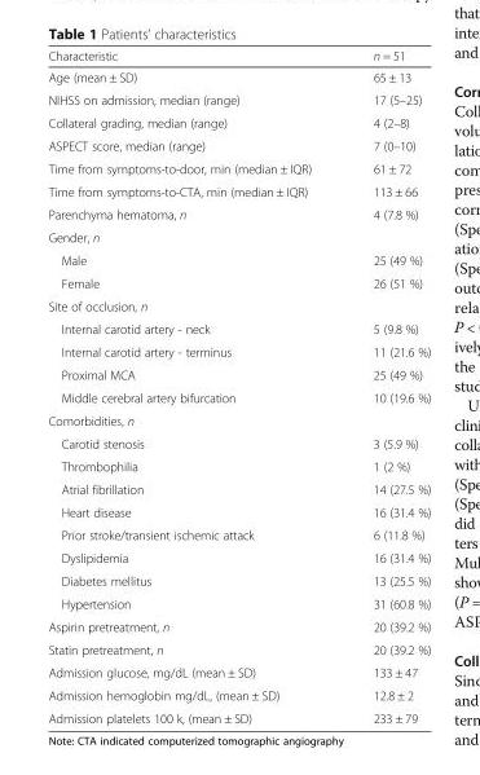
<table><thead><tr><td>Characteristic</td><td>n = 51</td></tr></thead><tbody><tr><td>Age (mean ± SD)</td><td>65 ± 13</td></tr><tr><td>NIHSS on admission, median (range)</td><td>17 (5–25)</td></tr><tr><td>Collateral grading, median (range)</td><td>4 (2–8)</td></tr><tr><td>ASPECT score, median (range)</td><td>7 (0–10)</td></tr><tr><td>Time from symptoms-to-door, min (median ± IQR)</td><td>61 ± 72</td></tr><tr><td>Time from symptoms-to-CTA, min (median ± IQR)</td><td>113 ± 66</td></tr><tr><td>Parenchyma hematoma, n</td><td>4 (7.8 %)</td></tr><tr><td colspan="2">Gender, n</td></tr><tr><td>Male</td><td>25 (49 %)</td></tr><tr><td>Female</td><td>26 (51 %)</td></tr><tr><td colspan="2">Site of occlusion, n</td></tr><tr><td>Internal carotid artery - neck</td><td>5 (9.8 %)</td></tr><tr><td>Internal carotid artery - terminus</td><td>11 (21.6 %)</td></tr><tr><td>Proximal MCA</td><td>25 (49 %)</td></tr><tr><td>Middle cerebral artery bifurcation</td><td>10 (19.6 %)</td></tr><tr><td colspan="2">Comorbidities, n</td></tr><tr><td>Carotid stenosis</td><td>3 (5.9 %)</td></tr><tr><td>Thrombophilia</td><td>1 (2 %)</td></tr><tr><td>Atrial fibrillation</td><td>14 (27.5 %)</td></tr><tr><td>Heart disease</td><td>16 (31.4 %)</td></tr><tr><td>Prior stroke/transient ischemic attack</td><td>6 (11.8 %)</td></tr><tr><td>Dyslipidemia</td><td>16 (31.4 %)</td></tr><tr><td>Diabetes mellitus</td><td>13 (25.5 %)</td></tr><tr><td>Hypertension</td><td>31 (60.8 %)</td></tr><tr><td>Aspirin pretreatment, n</td><td>20 (39.2 %)</td></tr><tr><td>Statin pretreatment, n</td><td>20 (39.2 %)</td></tr><tr><td>Admission glucose, mg/dL (mean ± SD)</td><td>133 ± 47</td></tr><tr><td>Admission hemoglobin mg/dL, (mean ± SD)</td><td>12.8 ± 2</td></tr><tr><td>Admission platelets 100 k, (mean ± SD)</td><td>233 ± 79</td></tr></tbody></table>